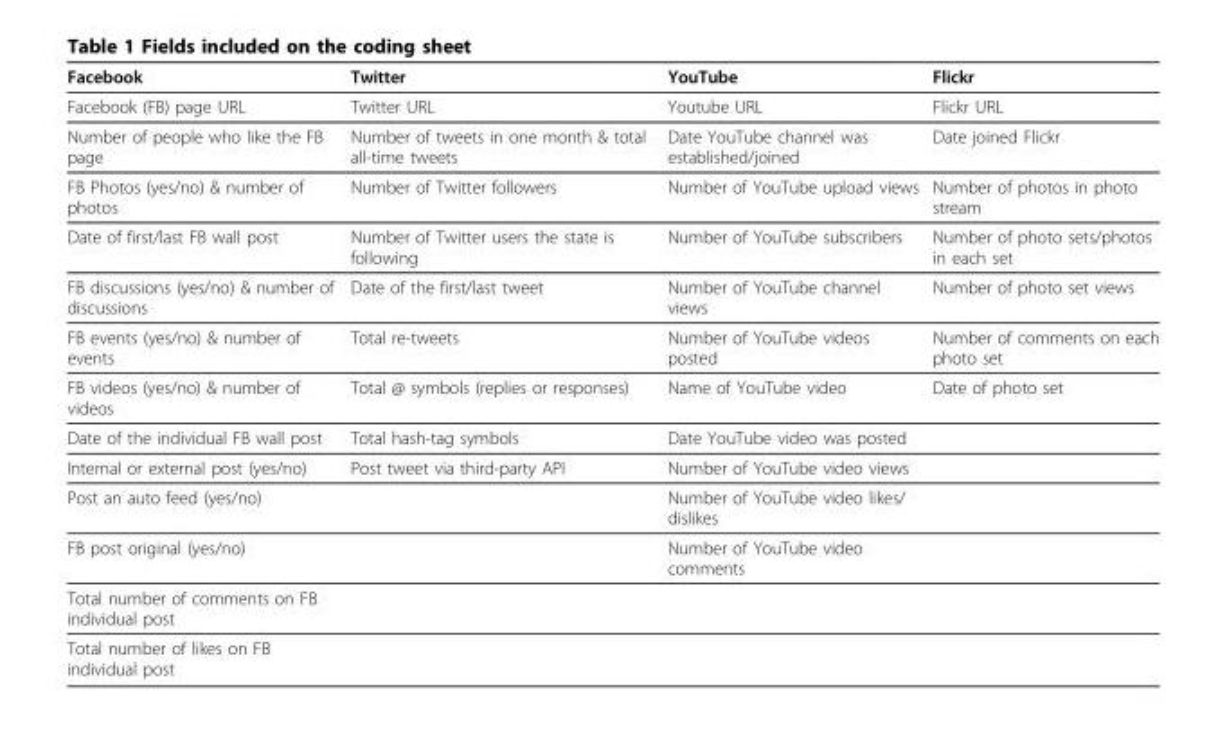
<table><thead><tr><td>Facebook</td><td>Twitter</td><td>YouTube</td><td>Flickr</td></tr></thead><tbody><tr><td>Facebook (FB) page URL</td><td>Twitter URL</td><td>Youtube URL</td><td>Flickr URL</td></tr><tr><td>Number of people who like the FB page</td><td>Number of tweets in one month &amp; total all-time tweets</td><td>Date YouTube channel was established/joined</td><td>Date joined Flickr</td></tr><tr><td>FB Photos (yes/no) &amp; number of photos</td><td>Number of Twitter followers</td><td>Number of YouTube upload views</td><td>Number of photos in photo stream</td></tr><tr><td>Date of first/last FB wall post</td><td>Number of Twitter users the state is following</td><td>Number of YouTube subscribers</td><td>Number of photo sets/photos in each set</td></tr><tr><td>FB discussions (yes/no) &amp; number of discussions</td><td>Date of the first/last tweet</td><td>Number of YouTube channel views</td><td>Number of photo set views</td></tr><tr><td>FB events (yes/no) &amp; number of events</td><td>Total re-tweets</td><td>Number of YouTube videos posted</td><td>Number of comments on each photo set</td></tr><tr><td>FB videos (yes/no) &amp; number of videos</td><td>Total @ symbols (replies or responses)</td><td>Name of YouTube video</td><td>Date of photo set</td></tr><tr><td>Date of the individual FB wall post</td><td>Total hash-tag symbols</td><td>Date YouTube video was posted</td><td></td></tr><tr><td>Internal or external post (yes/no)</td><td>Post tweet via third-party API</td><td>Number of YouTube video views</td><td></td></tr><tr><td>Post an auto feed (yes/no)</td><td></td><td>Number of YouTube video likes/ dislikes</td><td></td></tr><tr><td>FB post original (yes/no)</td><td></td><td>Number of YouTube video comments</td><td></td></tr><tr><td colspan="4">Total number of comments on FB individual post</td></tr><tr><td>Total number of likes on FB individual post</td><td></td><td></td><td></td></tr></tbody></table>